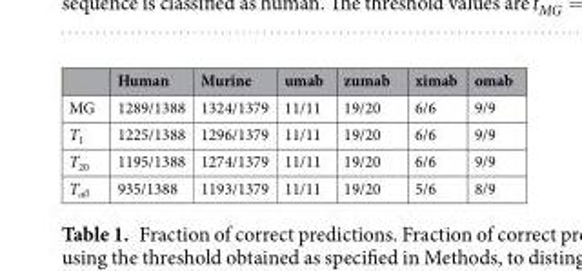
<table><thead><tr><td></td><td>Human</td><td>Murine</td><td>umab</td><td>zumab</td><td>ximab</td><td>omab</td></tr></thead><tbody><tr><td>MG</td><td>1289/1388</td><td>1324/1379</td><td>11/11</td><td>19/20</td><td>6/6</td><td>9/9</td></tr><tr><td>T<sub>1</sub></td><td>1225/1388</td><td>1296/1379</td><td>11/11</td><td>19/20</td><td>6/6</td><td>9/9</td></tr><tr><td>T<sub>20</sub></td><td>1195/1388</td><td>1274/1379</td><td>11/11</td><td>19/20</td><td>6/6</td><td>9/9</td></tr><tr><td>T<sub>all</sub></td><td>935/1388</td><td>1193/1379</td><td>11/11</td><td>19/20</td><td>5/6</td><td>8/9</td></tr></tbody></table>